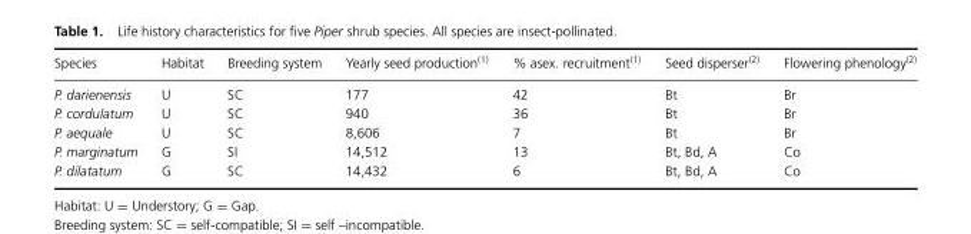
<table><thead><tr><td>Species</td><td>Habitat</td><td>Breeding system</td><td>Yearly seed production<sup>(1)</sup></td><td>% asex. recruitment<sup>(1)</sup></td><td>Seed disperser<sup>(2)</sup></td><td>Flowering phenology<sup>(2)</sup></td></tr></thead><tbody><tr><td>P. darienensis</td><td>U</td><td>SC</td><td>177</td><td>42</td><td>Bt</td><td>Br</td></tr><tr><td>P. cordulatum</td><td>U</td><td>SC</td><td>940</td><td>36</td><td>Bt</td><td>Br</td></tr><tr><td>P. aequale</td><td>U</td><td>SC</td><td>8,606</td><td>7</td><td>Bt</td><td>Br</td></tr><tr><td>P. marginatum</td><td>G</td><td>SI</td><td>14,512</td><td>13</td><td>Bt, Bd, A</td><td>Co</td></tr><tr><td>P. dilatatum</td><td>G</td><td>SC</td><td>14,432</td><td>6</td><td>Bt, Bd, A</td><td>Co</td></tr></tbody></table>